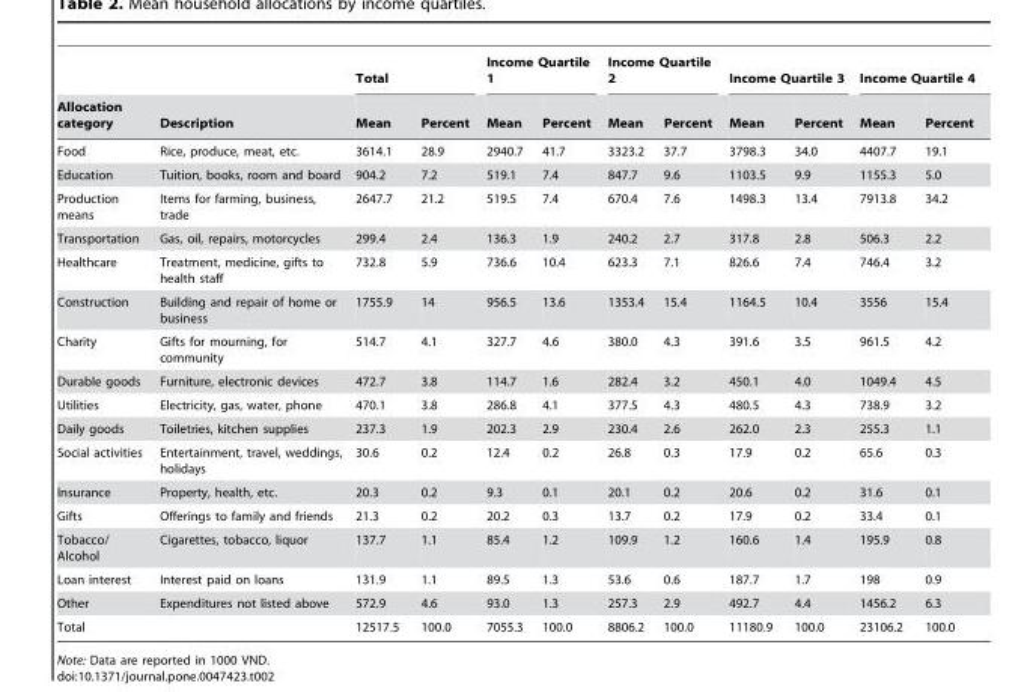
<table><thead><tr><td rowspan="2">Allocation category</td><td rowspan="2">Description</td><td colspan="2">Total</td><td colspan="2">Income Quartile 1</td><td colspan="2">Income Quartile 2</td><td colspan="2">Income Quartile 3</td><td colspan="2">Income Quartile 4</td></tr><tr><td>Mean</td><td>Percent</td><td>Mean</td><td>Percent</td><td>Mean</td><td>Percent</td><td>Mean</td><td>Percent</td><td>Mean</td><td>Percent</td></tr></thead><tbody><tr><td>Food</td><td>Rice, produce, meat, etc.</td><td>3614.1</td><td>28.9</td><td>2940.7</td><td>41.7</td><td>3323.2</td><td>37.7</td><td>3798.3</td><td>34.0</td><td>4407.7</td><td>19.1</td></tr><tr><td>Education</td><td>Tuition, books, room and board</td><td>904.2</td><td>7.2</td><td>519.1</td><td>7.4</td><td>847.7</td><td>9.6</td><td>1103.5</td><td>9.9</td><td>1155.3</td><td>5.0</td></tr><tr><td>Production means</td><td>Items for farming, business, trade</td><td>2647.7</td><td>21.2</td><td>519.5</td><td>7.4</td><td>670.4</td><td>7.6</td><td>1498.3</td><td>13.4</td><td>7913.8</td><td>34.2</td></tr><tr><td>Transportation</td><td>Gas, oil, repairs, motorcycles</td><td>299.4</td><td>2.4</td><td>136.3</td><td>1.9</td><td>240.2</td><td>2.7</td><td>317.8</td><td>2.8</td><td>506.3</td><td>2.2</td></tr><tr><td>Healthcare</td><td>Treatment, medicine, gifts to health staff</td><td>732.8</td><td>5.9</td><td>736.6</td><td>10.4</td><td>623.3</td><td>7.1</td><td>826.6</td><td>7.4</td><td>746.4</td><td>3.2</td></tr><tr><td>Construction</td><td>Building and repair of home or business</td><td>1755.9</td><td>14</td><td>956.5</td><td>13.6</td><td>1353.4</td><td>15.4</td><td>1164.5</td><td>10.4</td><td>3556</td><td>15.4</td></tr><tr><td>Charity</td><td>Gifts for mourning, for community</td><td>514.7</td><td>4.1</td><td>327.7</td><td>4.6</td><td>380.0</td><td>4.3</td><td>391.6</td><td>3.5</td><td>961.5</td><td>4.2</td></tr><tr><td>Durable goods</td><td>Furniture, electronic devices</td><td>472.7</td><td>3.8</td><td>114.7</td><td>1.6</td><td>282.4</td><td>3.2</td><td>450.1</td><td>4.0</td><td>1049.4</td><td>4.5</td></tr><tr><td>Utilities</td><td>Electricity, gas, water, phone</td><td>470.1</td><td>3.8</td><td>286.8</td><td>4.1</td><td>377.5</td><td>4.3</td><td>480.5</td><td>4.3</td><td>738.9</td><td>3.2</td></tr><tr><td>Daily goods</td><td>Toiletries, kitchen supplies</td><td>237.3</td><td>1.9</td><td>202.3</td><td>2.9</td><td>230.4</td><td>2.6</td><td>262.0</td><td>2.3</td><td>255.3</td><td>1.1</td></tr><tr><td>Social activities</td><td>Entertainment, travel, weddings, holidays</td><td>30.6</td><td>0.2</td><td>12.4</td><td>0.2</td><td>26.8</td><td>0.3</td><td>17.9</td><td>0.2</td><td>65.6</td><td>0.3</td></tr><tr><td>Insurance</td><td>Property, health, etc.</td><td>20.3</td><td>0.2</td><td>9.3</td><td>0.1</td><td>20.1</td><td>0.2</td><td>20.6</td><td>0.2</td><td>31.6</td><td>0.1</td></tr><tr><td>Gifts</td><td>Offerings to family and friends</td><td>21.3</td><td>0.2</td><td>20.2</td><td>0.3</td><td>13.7</td><td>0.2</td><td>17.9</td><td>0.2</td><td>33.4</td><td>0.1</td></tr><tr><td>Tobacco/ Alcohol</td><td>Cigarettes, tobacco, liquor</td><td>137.7</td><td>1.1</td><td>85.4</td><td>1.2</td><td>109.9</td><td>1.2</td><td>160.6</td><td>1.4</td><td>195.9</td><td>0.8</td></tr><tr><td>Loan interest</td><td>Interest paid on loans</td><td>131.9</td><td>1.1</td><td>89.5</td><td>1.3</td><td>53.6</td><td>0.6</td><td>187.7</td><td>1.7</td><td>198</td><td>0.9</td></tr><tr><td>Other</td><td>Expenditures not listed above</td><td>572.9</td><td>4.6</td><td>93.0</td><td>1.3</td><td>257.3</td><td>2.9</td><td>492.7</td><td>4.4</td><td>1456.2</td><td>6.3</td></tr><tr><td>Total</td><td></td><td>12517.5</td><td>100.0</td><td>7055.3</td><td>100.0</td><td>8806.2</td><td>100.0</td><td>11180.9</td><td>100.0</td><td>23106.2</td><td>100.0</td></tr></tbody></table>